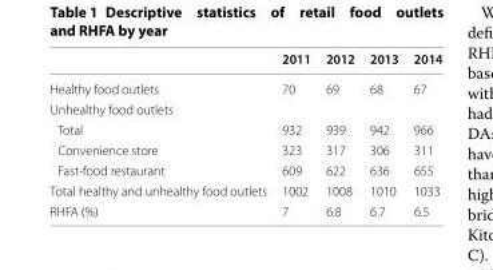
<table><thead><tr><td></td><td>2011</td><td>2012</td><td>2013</td><td>2014</td></tr></thead><tbody><tr><td>Healthy food outlets</td><td>70</td><td>69</td><td>68</td><td>67</td></tr><tr><td colspan="5">Unhealthy food outlets</td></tr><tr><td>Total</td><td>932</td><td>939</td><td>942</td><td>966</td></tr><tr><td>Convenience store</td><td>323</td><td>317</td><td>306</td><td>311</td></tr><tr><td>Fast-food restaurant</td><td>609</td><td>622</td><td>636</td><td>655</td></tr><tr><td>Total healthy and unhealthy food outlets</td><td>1002</td><td>1008</td><td>1010</td><td>1033</td></tr><tr><td>RHFA (%)</td><td>7</td><td>6.8</td><td>6.7</td><td>6.5</td></tr></tbody></table>